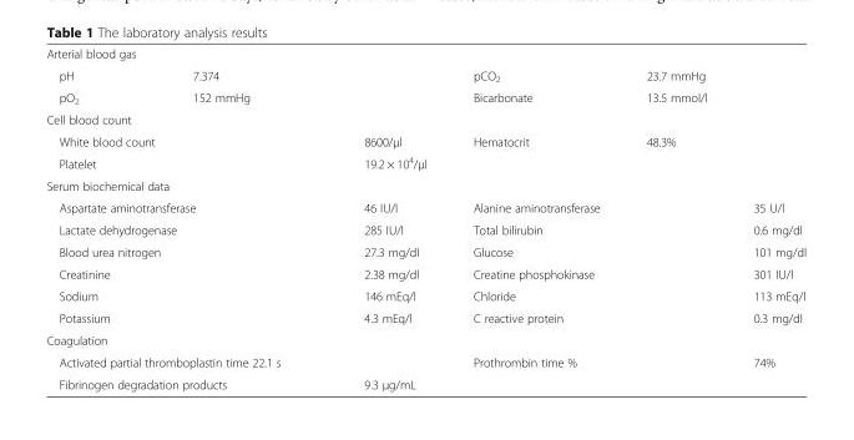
<table><tbody><tr><td colspan="6">Arterial blood gas</td></tr><tr><td>pH</td><td>7.374</td><td></td><td>pCO<sub>2</sub></td><td>23.7 mmHg</td><td></td></tr><tr><td>pO<sub>2</sub></td><td>152 mmHg</td><td></td><td>Bicarbonate</td><td>13.5 mmol/l</td><td></td></tr><tr><td colspan="6">Cell blood count</td></tr><tr><td colspan="2">White blood count</td><td>8600/μl</td><td>Hematocrit</td><td>48.3%</td><td></td></tr><tr><td colspan="2">Platelet</td><td>19.2 × 10<sup>4</sup>/μl</td><td></td><td></td><td></td></tr><tr><td colspan="6">Serum biochemical data</td></tr><tr><td colspan="2">Aspartate aminotransferase</td><td>46 IU/l</td><td>Alanine aminotransferase</td><td></td><td>35 U/l</td></tr><tr><td colspan="2">Lactate dehydrogenase</td><td>285 IU/l</td><td>Total bilirubin</td><td></td><td>0.6 mg/dl</td></tr><tr><td colspan="2">Blood urea nitrogen</td><td>27.3 mg/dl</td><td>Glucose</td><td></td><td>101 mg/dl</td></tr><tr><td colspan="2">Creatinine</td><td>2.38 mg/dl</td><td>Creatine phosphokinase</td><td></td><td>301 IU/l</td></tr><tr><td colspan="2">Sodium</td><td>146 mEq/l</td><td>Chloride</td><td></td><td>113 mEq/l</td></tr><tr><td colspan="2">Potassium</td><td>4.3 mEq/l</td><td>C reactive protein</td><td></td><td>0.3 mg/dl</td></tr><tr><td colspan="6">Coagulation</td></tr><tr><td colspan="2">Activated partial thromboplastin time 22.1 s</td><td></td><td>Prothrombin time %</td><td></td><td>74%</td></tr><tr><td colspan="2">Fibrinogen degradation products</td><td>9.3 μg/mL</td><td></td><td></td><td></td></tr></tbody></table>